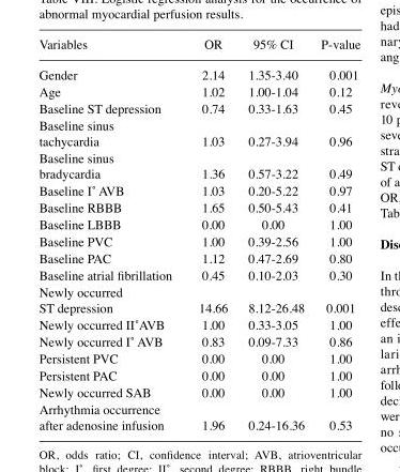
<table><thead><tr><td>Variables</td><td>OR</td><td>95% CI</td><td>P-value</td></tr></thead><tbody><tr><td>Gender</td><td>2.14</td><td>1.35-3.40</td><td>0.001</td></tr><tr><td>Age</td><td>1.02</td><td>1.00-1.04</td><td>0.12</td></tr><tr><td>Baseline ST depression</td><td>0.74</td><td>0.33-1.63</td><td>0.45</td></tr><tr><td>Baseline sinus tachycardia</td><td>1.03</td><td>0.27-3.94</td><td>0.96</td></tr><tr><td>Baseline sinus bradycardia</td><td>1.36</td><td>0.57-3.22</td><td>0.49</td></tr><tr><td>Baseline Ⅰ˚ AVB</td><td>1.03</td><td>0.20‑5.22</td><td>0.97</td></tr><tr><td>Baseline RBBB</td><td>1.65</td><td>0.50-5.43</td><td>0.41</td></tr><tr><td>Baseline LBBB</td><td>0.00</td><td>0.00</td><td>1.00</td></tr><tr><td>Baseline PVC</td><td>1.00</td><td>0.39-2.56</td><td>1.00</td></tr><tr><td>Baseline PAC</td><td>1.12</td><td>0.47-2.69</td><td>0.80</td></tr><tr><td>Baseline atrial fibrillation</td><td>0.45</td><td>0.10‑2.03</td><td>0.30</td></tr><tr><td>Newly occurred ST depression</td><td>14.66</td><td>8.12-26.48</td><td>0.001</td></tr><tr><td>Newly occurred Ⅱ˚AVB</td><td>1.00</td><td>0.33‑3.05</td><td>1.00</td></tr><tr><td>Newly occurred Ⅰ˚ AVB</td><td>0.83</td><td>0.09‑7.33</td><td>0.86</td></tr><tr><td>Persistent PVC</td><td>0.00</td><td>0.00</td><td>1.00</td></tr><tr><td>Persistent PAC</td><td>0.00</td><td>0.00</td><td>1.00</td></tr><tr><td>Newly occurred SAB</td><td>0.00</td><td>0.00</td><td>1.00</td></tr><tr><td>Arrhythmia occurrence after adenosine infusion</td><td>1.96</td><td>0.24-16.36</td><td>0.53</td></tr></tbody></table>